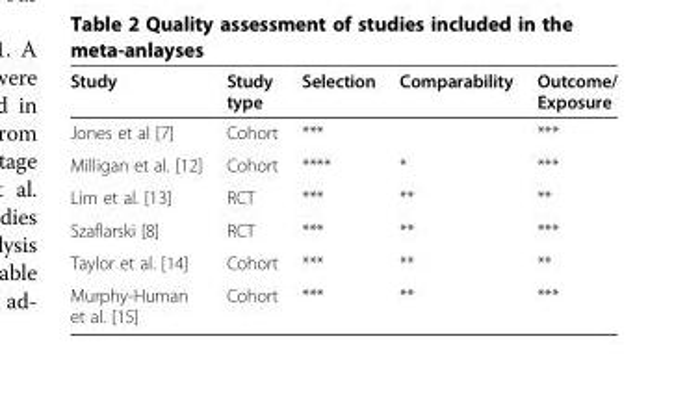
<table><thead><tr><td>Study</td><td>Study type</td><td>Selection</td><td>Comparability</td><td>Outcome/ Exposure</td></tr></thead><tbody><tr><td>Jones et al [7]</td><td>Cohort</td><td>***</td><td></td><td>***</td></tr><tr><td>Milligan et al. [12]</td><td>Cohort</td><td>****</td><td>*</td><td>***</td></tr><tr><td>Lim et al. [13]</td><td>RCT</td><td>***</td><td>**</td><td>**</td></tr><tr><td>Szaflarski [8]</td><td>RCT</td><td>***</td><td>**</td><td>***</td></tr><tr><td>Taylor et al. [14]</td><td>Cohort</td><td>***</td><td>**</td><td>**</td></tr><tr><td>Murphy-Human et al. [15]</td><td>Cohort</td><td>***</td><td>**</td><td>***</td></tr></tbody></table>